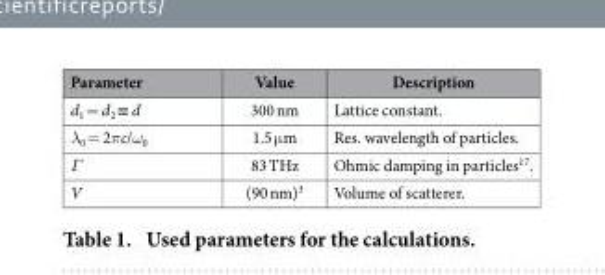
<table><thead><tr><td>Parameter</td><td>Value</td><td>Description</td></tr></thead><tbody><tr><td>d<sub>1</sub> = d<sub>2</sub> ≡ d</td><td>300 nm</td><td>Lattice constant.</td></tr><tr><td>λ<sub>0</sub> = 2πc/ω<sub>0</sub></td><td>1.5 μ m</td><td>Res. wavelength of particles.</td></tr><tr><td>Γ</td><td>83 THz</td><td>Ohmic damping in particles<sup>17</sup>.</td></tr><tr><td>V</td><td>(90 nm)<sup>3</sup></td><td>Volume of scatterer.</td></tr></tbody></table>